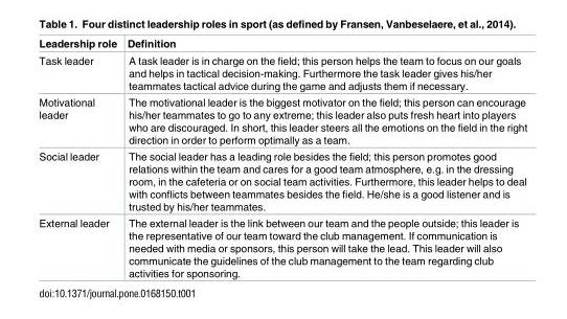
<table><thead><tr><td>Leadership role</td><td>Definition</td></tr></thead><tbody><tr><td>Task leader</td><td>A task leader is in charge on the field; this person helps the team to focus on our goals and helps in tactical decision-making. Furthermore the task leader gives his/her teammates tactical advice during the game and adjusts them if necessary.</td></tr><tr><td>Motivational leader</td><td>The motivational leader is the biggest motivator on the field; this person can encourage his/her teammates to go to any extreme; this leader also puts fresh heart into players who are discouraged. In short, this leader steers all the emotions on the field in the right direction in order to perform optimally as a team.</td></tr><tr><td>Social leader</td><td>The social leader has a leading role besides the field; this person promotes good relations within the team and cares for a good team atmosphere, e.g. in the dressing room, in the cafeteria or on social team activities. Furthermore, this leader helps to deal with conflicts between teammates besides the field. He/she is a good listener and is trusted by his/her teammates.</td></tr><tr><td>External leader</td><td>The external leader is the link between our team and the people outside; this leader is the representative of our team toward the club management. If communication is needed with media or sponsors, this person will take the lead. This leader will also communicate the guidelines of the club management to the team regarding club activities for sponsoring.</td></tr></tbody></table>